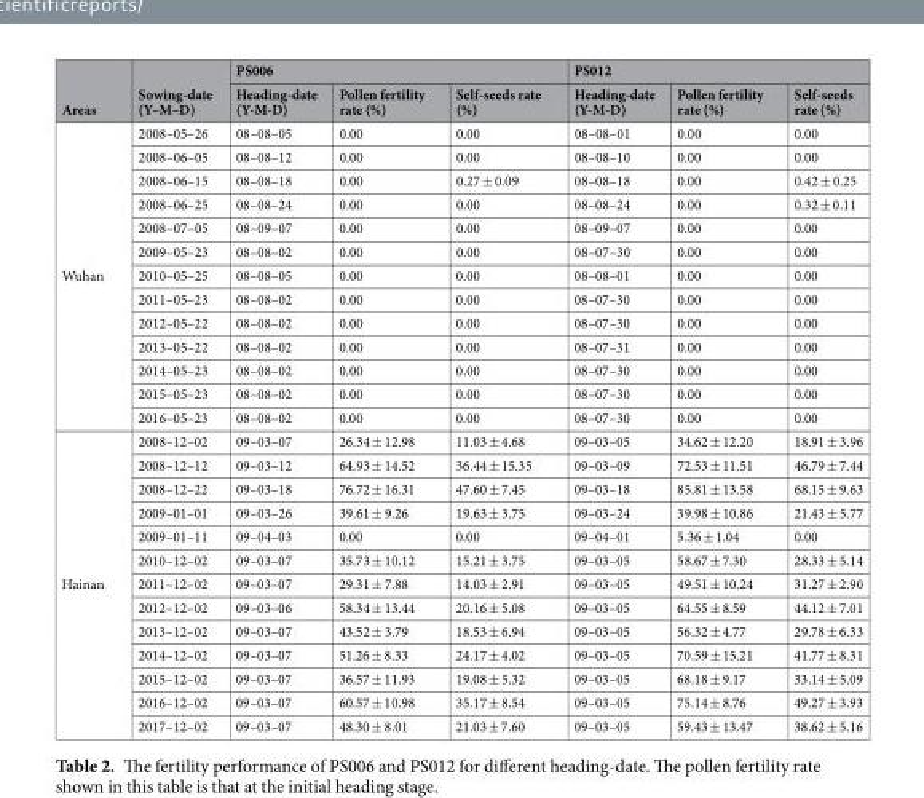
<table><thead><tr><td rowspan="2">Areas</td><td rowspan="2">Sowing-date (Y–M–D)</td><td colspan="3">PS006</td><td colspan="3">PS012</td></tr><tr><td>Heading-date (Y-M-D)</td><td>Pollen fertility rate (%)</td><td>Self-seeds rate (%)</td><td>Heading-date (Y-M-D)</td><td>Pollen fertility rate (%)</td><td>Self-seeds rate (%)</td></tr></thead><tbody><tr><td rowspan="13">Wuhan</td><td>2008–05–26</td><td>08–08–05</td><td>0.00</td><td>0.00</td><td>08–08–01</td><td>0.00</td><td>0.00</td></tr><tr><td>2008–06–05</td><td>08–08–12</td><td>0.00</td><td>0.00</td><td>08–08–10</td><td>0.00</td><td>0.00</td></tr><tr><td>2008–06–15</td><td>08–08–18</td><td>0.00</td><td>0.27 ± 0.09</td><td>08–08–18</td><td>0.00</td><td>0.42 ± 0.25</td></tr><tr><td>2008–06–25</td><td>08–08–24</td><td>0.00</td><td>0.00</td><td>08–08–24</td><td>0.00</td><td>0.32 ± 0.11</td></tr><tr><td>2008–07–05</td><td>08–09–07</td><td>0.00</td><td>0.00</td><td>08–09–07</td><td>0.00</td><td>0.00</td></tr><tr><td>2009–05–23</td><td>08–08–02</td><td>0.00</td><td>0.00</td><td>08–07–30</td><td>0.00</td><td>0.00</td></tr><tr><td>2010–05–25</td><td>08–08–05</td><td>0.00</td><td>0.00</td><td>08–08–01</td><td>0.00</td><td>0.00</td></tr><tr><td>2011–05–23</td><td>08–08–02</td><td>0.00</td><td>0.00</td><td>08–07–30</td><td>0.00</td><td>0.00</td></tr><tr><td>2012–05–22</td><td>08–08–02</td><td>0.00</td><td>0.00</td><td>08–07–30</td><td>0.00</td><td>0.00</td></tr><tr><td>2013–05–22</td><td>08–08–02</td><td>0.00</td><td>0.00</td><td>08–07–31</td><td>0.00</td><td>0.00</td></tr><tr><td>2014–05–23</td><td>08–08–02</td><td>0.00</td><td>0.00</td><td>08–07–30</td><td>0.00</td><td>0.00</td></tr><tr><td>2015–05–23</td><td>08–08–02</td><td>0.00</td><td>0.00</td><td>08–07–30</td><td>0.00</td><td>0.00</td></tr><tr><td>2016–05–23</td><td>08–08–02</td><td>0.00</td><td>0.00</td><td>08–07–30</td><td>0.00</td><td>0.00</td></tr><tr><td rowspan="13">Hainan</td><td>2008–12–02</td><td>09–03–07</td><td>26.34 ± 12.98</td><td>11.03 ± 4.68</td><td>09–03–05</td><td>34.62 ± 12.20</td><td>18.91 ± 3.96</td></tr><tr><td>2008–12–12</td><td>09–03–12</td><td>64.93 ± 14.52</td><td>36.44 ± 15.35</td><td>09–03–09</td><td>72.53 ± 11.51</td><td>46.79 ± 7.44</td></tr><tr><td>2008–12–22</td><td>09–03–18</td><td>76.72 ± 16.31</td><td>47.60 ± 7.45</td><td>09–03–18</td><td>85.81 ± 13.58</td><td>68.15 ± 9.63</td></tr><tr><td>2009–01–01</td><td>09–03–26</td><td>39.61 ± 9.26</td><td>19.63 ± 3.75</td><td>09–03–24</td><td>39.98 ± 10.86</td><td>21.43 ± 5.77</td></tr><tr><td>2009–01–11</td><td>09–04–03</td><td>0.00</td><td>0.00</td><td>09–04–01</td><td>5.36 ± 1.04</td><td>0.00</td></tr><tr><td>2010–12–02</td><td>09–03–07</td><td>35.73 ± 10.12</td><td>15.21 ± 3.75</td><td>09–03–05</td><td>58.67 ± 7.30</td><td>28.33 ± 5.14</td></tr><tr><td>2011–12–02</td><td>09–03–07</td><td>29.31 ± 7.88</td><td>14.03 ± 2.91</td><td>09–03–05</td><td>49.51 ± 10.24</td><td>31.27 ± 2.90</td></tr><tr><td>2012–12–02</td><td>09–03–06</td><td>58.34 ± 13.44</td><td>20.16 ± 5.08</td><td>09–03–05</td><td>64.55 ± 8.59</td><td>44.12 ± 7.01</td></tr><tr><td>2013–12–02</td><td>09–03–07</td><td>43.52 ± 3.79</td><td>18.53 ± 6.94</td><td>09–03–05</td><td>56.32 ± 4.77</td><td>29.78 ± 6.33</td></tr><tr><td>2014–12–02</td><td>09–03–07</td><td>51.26 ± 8.33</td><td>24.17 ± 4.02</td><td>09–03–05</td><td>70.59 ± 15.21</td><td>41.77 ± 8.31</td></tr><tr><td>2015–12–02</td><td>09–03–07</td><td>36.57 ± 11.93</td><td>19.08 ± 5.32</td><td>09–03–05</td><td>68.18 ± 9.17</td><td>33.14 ± 5.09</td></tr><tr><td>2016–12–02</td><td>09–03–07</td><td>60.57 ± 10.98</td><td>35.17 ± 8.54</td><td>09–03–05</td><td>75.14 ± 8.76</td><td>49.27 ± 3.93</td></tr><tr><td>2017–12–02</td><td>09–03–07</td><td>48.30 ± 8.01</td><td>21.03 ± 7.60</td><td>09–03–05</td><td>59.43 ± 13.47</td><td>38.62 ± 5.16</td></tr></tbody></table>